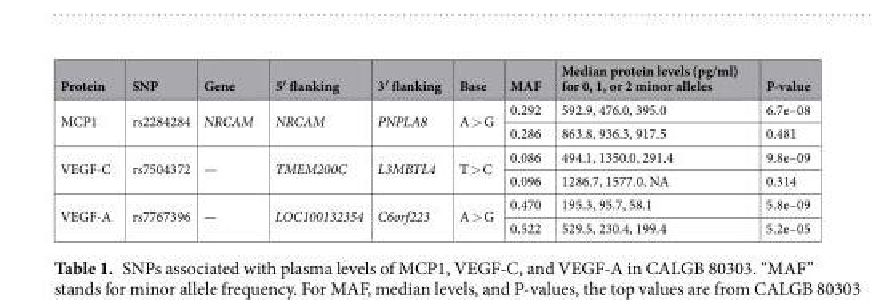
<table><thead><tr><td>Protein</td><td>SNP</td><td>Gene</td><td>5′ flanking</td><td>3′ flanking</td><td>Base</td><td>MAF</td><td>Median protein levels (pg/ml) for 0, 1, or 2 minor alleles</td><td>P-value</td></tr></thead><tbody><tr><td rowspan="2">MCP1</td><td rowspan="2">rs2284284</td><td rowspan="2">NRCAM</td><td rowspan="2">NRCAM</td><td rowspan="2">PNPLA8</td><td rowspan="2">A &gt; G</td><td>0.292</td><td>592.9, 476.0, 395.0</td><td>6.7e–08</td></tr><tr><td>0.286</td><td>863.8, 936.3, 917.5</td><td>0.481</td></tr><tr><td rowspan="2">VEGF-C</td><td rowspan="2">rs7504372</td><td rowspan="2">—</td><td rowspan="2">TMEM200C</td><td rowspan="2">L3MBTL4</td><td rowspan="2">T &gt; C</td><td>0.086</td><td>494.1, 1350.0, 291.4</td><td>9.8e–09</td></tr><tr><td>0.096</td><td>1286.7, 1577.0, NA</td><td>0.314</td></tr><tr><td rowspan="2">VEGF-A</td><td rowspan="2">rs7767396</td><td rowspan="2">—</td><td rowspan="2">LOC100132354</td><td rowspan="2">C6orf223</td><td rowspan="2">A &gt; G</td><td>0.470</td><td>195.3, 95.7, 58.1</td><td>5.8e–09</td></tr><tr><td>0.522</td><td>529.5, 230.4, 199.4</td><td>5.2e–05</td></tr></tbody></table>